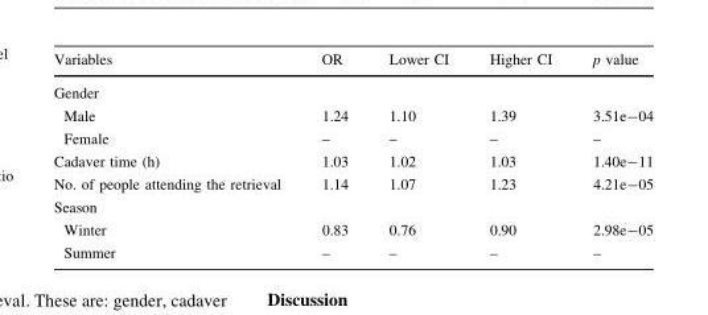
<table><thead><tr><td>Variables</td><td>OR</td><td>Lower CI</td><td>Higher CI</td><td>p value</td></tr></thead><tbody><tr><td colspan="5">Gender</td></tr><tr><td>Male</td><td>1.24</td><td>1.10</td><td>1.39</td><td>3.51e-04</td></tr><tr><td>Female</td><td>–</td><td>–</td><td>–</td><td>–</td></tr><tr><td>Cadaver time (h)</td><td>1.03</td><td>1.02</td><td>1.03</td><td>1.40e-11</td></tr><tr><td>No. of people attending the retrieval</td><td>1.14</td><td>1.07</td><td>1.23</td><td>4.21e-05</td></tr><tr><td colspan="5">Season</td></tr><tr><td>Winter</td><td>0.83</td><td>0.76</td><td>0.90</td><td>2.98e-05</td></tr><tr><td>Summer</td><td>–</td><td>–</td><td>–</td><td>–</td></tr></tbody></table>